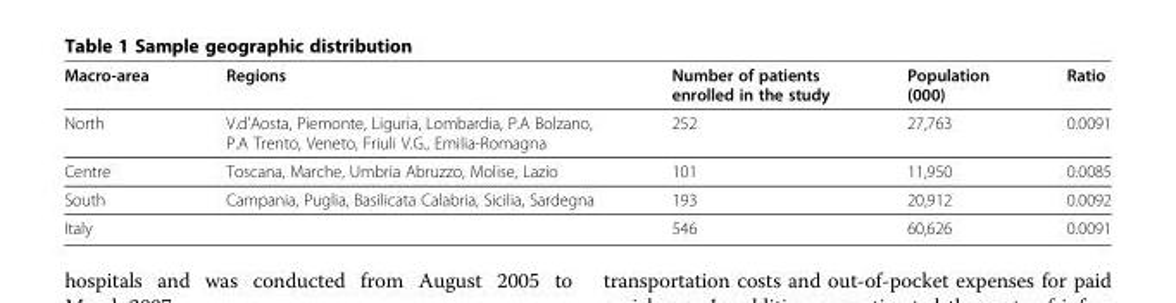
<table><thead><tr><td>Macro-area</td><td>Regions</td><td>Number of patients enrolled in the study</td><td>Population (000)</td><td>Ratio</td></tr></thead><tbody><tr><td>North</td><td>V.d’Aosta, Piemonte, Liguria, Lombardia, P.A Bolzano, P.A Trento, Veneto, Friuli V.G., Emilia-Romagna</td><td>252</td><td>27,763</td><td>0.0091</td></tr><tr><td>Centre</td><td>Toscana, Marche, Umbria Abruzzo, Molise, Lazio</td><td>101</td><td>11,950</td><td>0.0085</td></tr><tr><td>South</td><td>Campania, Puglia, Basilicata Calabria, Sicilia, Sardegna</td><td>193</td><td>20,912</td><td>0.0092</td></tr><tr><td>Italy</td><td></td><td>546</td><td>60,626</td><td>0.0091</td></tr></tbody></table>